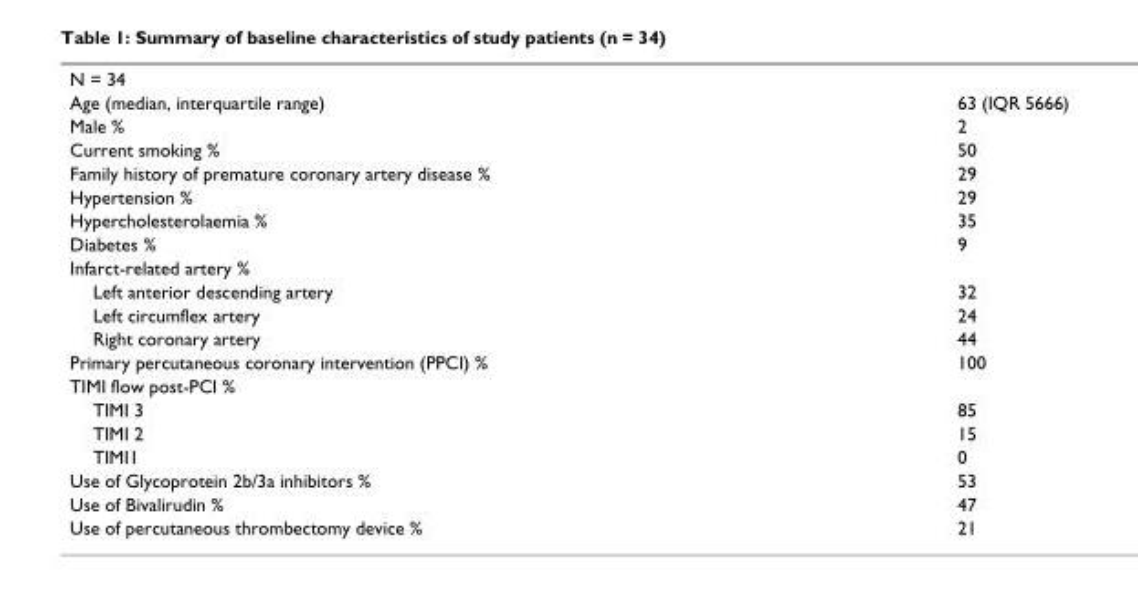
<table><tbody><tr><td colspan="2">N = 34</td></tr><tr><td>Age (median, interquartile range)</td><td>63 (IQR 5666)</td></tr><tr><td>Male %</td><td>2</td></tr><tr><td>Current smoking %</td><td>50</td></tr><tr><td>Family history of premature coronary artery disease %</td><td>29</td></tr><tr><td>Hypertension %</td><td>29</td></tr><tr><td>Hypercholesterolaemia %</td><td>35</td></tr><tr><td>Diabetes %</td><td>9</td></tr><tr><td colspan="2">Infarct-related artery %</td></tr><tr><td>Left anterior descending artery</td><td>32</td></tr><tr><td>Left circumflex artery</td><td>24</td></tr><tr><td>Right coronary artery</td><td>44</td></tr><tr><td>Primary percutaneous coronary intervention (PPCI) %</td><td>100</td></tr><tr><td colspan="2">TIMI flow post-PCI %</td></tr><tr><td>TIMI 3</td><td>85</td></tr><tr><td>TIMI 2</td><td>15</td></tr><tr><td>TIMI1</td><td>0</td></tr><tr><td>Use of Glycoprotein 2b/3a inhibitors %</td><td>53</td></tr><tr><td>Use of Bivalirudin %</td><td>47</td></tr><tr><td>Use of percutaneous thrombectomy device %</td><td>21</td></tr></tbody></table>